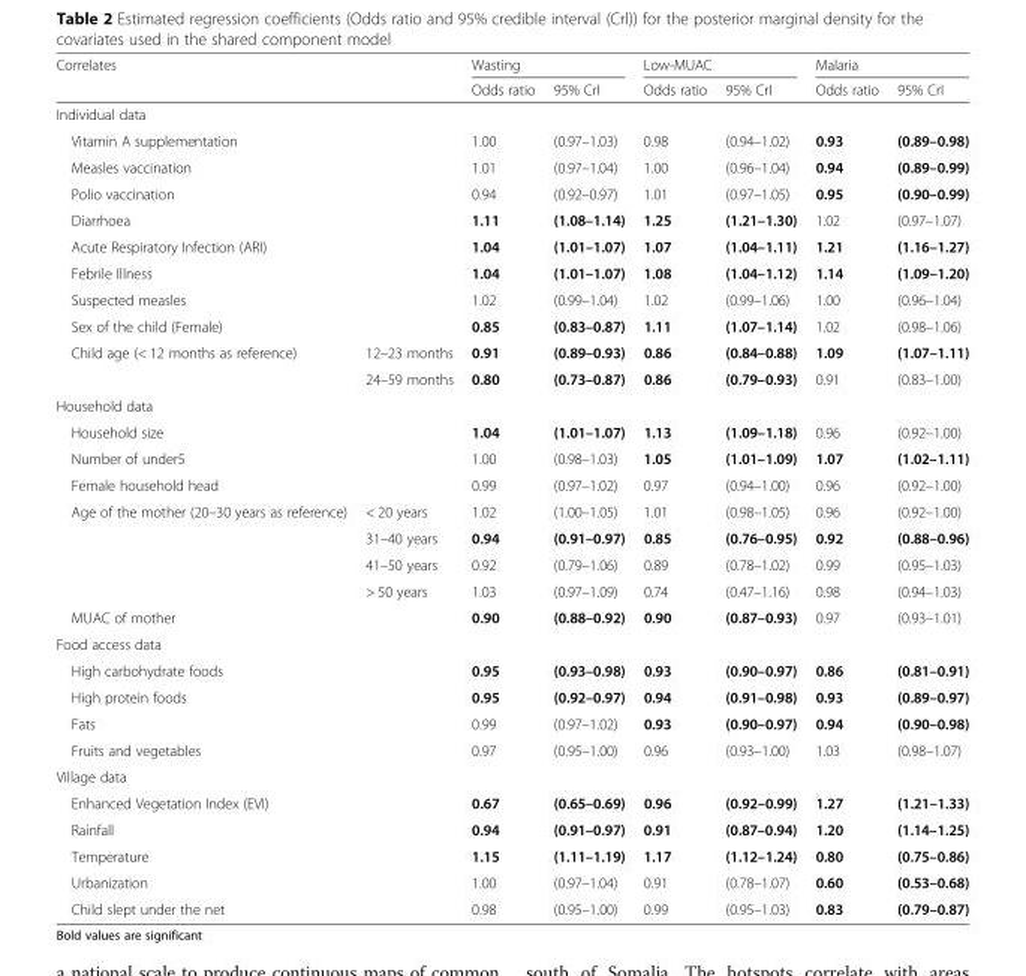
<table><thead><tr><td colspan="2">Correlates</td><td colspan="2">Wasting</td><td colspan="2">Low-MUAC</td><td colspan="2">Malaria</td></tr><tr><td></td><td></td><td>Odds ratio</td><td>95% CrI</td><td>Odds ratio</td><td>95% CrI</td><td>Odds ratio</td><td>95% CrI</td></tr></thead><tbody><tr><td colspan="8">Individual data</td></tr><tr><td colspan="2">Vitamin A supplementation</td><td>1.00</td><td>(0.97–1.03)</td><td>0.98</td><td>(0.94–1.02)</td><td>0.93</td><td>(0.89–0.98)</td></tr><tr><td colspan="2">Measles vaccination</td><td>1.01</td><td>(0.97–1.04)</td><td>1.00</td><td>(0.96–1.04)</td><td>0.94</td><td>(0.89–0.99)</td></tr><tr><td colspan="2">Polio vaccination</td><td>0.94</td><td>(0.92–0.97)</td><td>1.01</td><td>(0.97–1.05)</td><td>0.95</td><td>(0.90–0.99)</td></tr><tr><td colspan="2">Diarrhoea</td><td>1.11</td><td>(1.08–1.14)</td><td>1.25</td><td>(1.21–1.30)</td><td>1.02</td><td>(0.97–1.07)</td></tr><tr><td colspan="2">Acute Respiratory Infection (ARI)</td><td>1.04</td><td>(1.01–1.07)</td><td>1.07</td><td>(1.04–1.11)</td><td>1.21</td><td>(1.16–1.27)</td></tr><tr><td colspan="2">Febrile Illness</td><td>1.04</td><td>(1.01–1.07)</td><td>1.08</td><td>(1.04–1.12)</td><td>1.14</td><td>(1.09–1.20)</td></tr><tr><td colspan="2">Suspected measles</td><td>1.02</td><td>(0.99–1.04)</td><td>1.02</td><td>(0.99–1.06)</td><td>1.00</td><td>(0.96–1.04)</td></tr><tr><td colspan="2">Sex of the child (Female)</td><td>0.85</td><td>(0.83–0.87)</td><td>1.11</td><td>(1.07–1.14)</td><td>1.02</td><td>(0.98–1.06)</td></tr><tr><td rowspan="2">Child age (&lt; 12 months as reference)</td><td>12–23 months</td><td>0.91</td><td>(0.89–0.93)</td><td>0.86</td><td>(0.84–0.88)</td><td>1.09</td><td>(1.07–1.11)</td></tr><tr><td>24–59 months</td><td>0.80</td><td>(0.73–0.87)</td><td>0.86</td><td>(0.79–0.93)</td><td>0.91</td><td>(0.83–1.00)</td></tr><tr><td colspan="8">Household data</td></tr><tr><td colspan="2">Household size</td><td>1.04</td><td>(1.01–1.07)</td><td>1.13</td><td>(1.09–1.18)</td><td>0.96</td><td>(0.92–1.00)</td></tr><tr><td colspan="2">Number of under5</td><td>1.00</td><td>(0.98–1.03)</td><td>1.05</td><td>(1.01–1.09)</td><td>1.07</td><td>(1.02–1.11)</td></tr><tr><td colspan="2">Female household head</td><td>0.99</td><td>(0.97–1.02)</td><td>0.97</td><td>(0.94–1.00)</td><td>0.96</td><td>(0.92–1.00)</td></tr><tr><td rowspan="4">Age of the mother (20–30 years as reference)</td><td>&lt; 20 years</td><td>1.02</td><td>(1.00–1.05)</td><td>1.01</td><td>(0.98–1.05)</td><td>0.96</td><td>(0.92–1.00)</td></tr><tr><td>31–40 years</td><td>0.94</td><td>(0.91–0.97)</td><td>0.85</td><td>(0.76–0.95)</td><td>0.92</td><td>(0.88–0.96)</td></tr><tr><td>41–50 years</td><td>0.92</td><td>(0.79–1.06)</td><td>0.89</td><td>(0.78–1.02)</td><td>0.99</td><td>(0.95–1.03)</td></tr><tr><td>&gt; 50 years</td><td>1.03</td><td>(0.97–1.09)</td><td>0.74</td><td>(0.47–1.16)</td><td>0.98</td><td>(0.94–1.03)</td></tr><tr><td colspan="2">MUAC of mother</td><td>0.90</td><td>(0.88–0.92)</td><td>0.90</td><td>(0.87–0.93)</td><td>0.97</td><td>(0.93–1.01)</td></tr><tr><td colspan="8">Food access data</td></tr><tr><td colspan="2">High carbohydrate foods</td><td>0.95</td><td>(0.93–0.98)</td><td>0.93</td><td>(0.90–0.97)</td><td>0.86</td><td>(0.81–0.91)</td></tr><tr><td colspan="2">High protein foods</td><td>0.95</td><td>(0.92–0.97)</td><td>0.94</td><td>(0.91–0.98)</td><td>0.93</td><td>(0.89–0.97)</td></tr><tr><td colspan="2">Fats</td><td>0.99</td><td>(0.97–1.02)</td><td>0.93</td><td>(0.90–0.97)</td><td>0.94</td><td>(0.90–0.98)</td></tr><tr><td colspan="2">Fruits and vegetables</td><td>0.97</td><td>(0.95–1.00)</td><td>0.96</td><td>(0.93–1.00)</td><td>1.03</td><td>(0.98–1.07)</td></tr><tr><td colspan="8">Village data</td></tr><tr><td colspan="2">Enhanced Vegetation Index (EVI)</td><td>0.67</td><td>(0.65–0.69)</td><td>0.96</td><td>(0.92–0.99)</td><td>1.27</td><td>(1.21–1.33)</td></tr><tr><td colspan="2">Rainfall</td><td>0.94</td><td>(0.91–0.97)</td><td>0.91</td><td>(0.87–0.94)</td><td>1.20</td><td>(1.14–1.25)</td></tr><tr><td colspan="2">Temperature</td><td>1.15</td><td>(1.11–1.19)</td><td>1.17</td><td>(1.12–1.24)</td><td>0.80</td><td>(0.75–0.86)</td></tr><tr><td colspan="2">Urbanization</td><td>1.00</td><td>(0.97–1.04)</td><td>0.91</td><td>(0.78–1.07)</td><td>0.60</td><td>(0.53–0.68)</td></tr><tr><td colspan="2">Child slept under the net</td><td>0.98</td><td>(0.95–1.00)</td><td>0.99</td><td>(0.95–1.03)</td><td>0.83</td><td>(0.79–0.87)</td></tr></tbody></table>